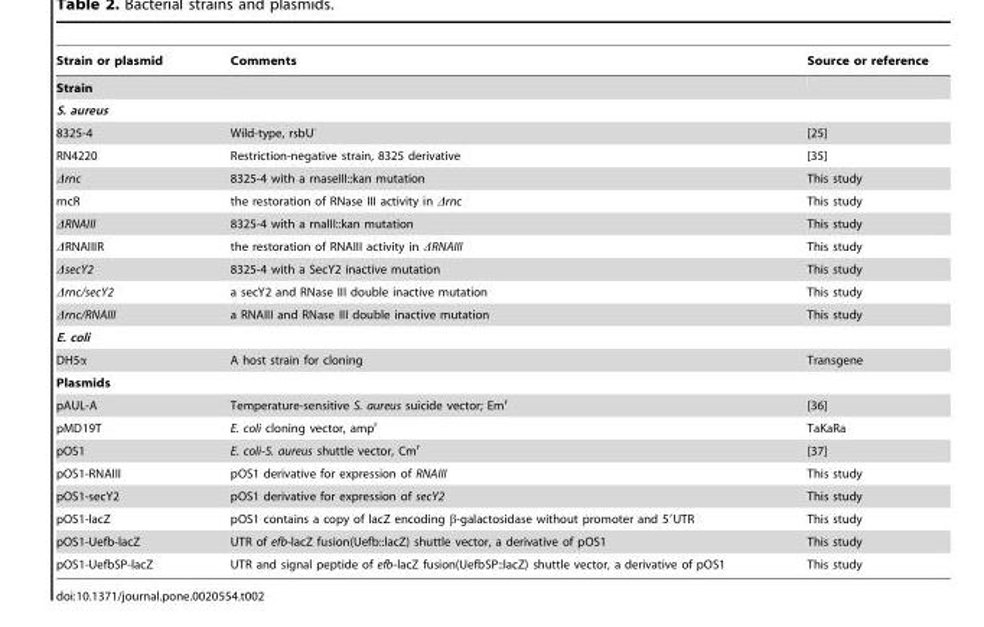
<table><thead><tr><td>Strain or plasmid</td><td>Comments</td><td>Source or reference</td></tr></thead><tbody><tr><td colspan="3">Strain</td></tr><tr><td colspan="3">S. aureus</td></tr><tr><td>8325-4</td><td>Wild-type, rsbU<sup>-</sup></td><td>[25]</td></tr><tr><td>RN4220</td><td>Restriction-negative strain, 8325 derivative</td><td>[35]</td></tr><tr><td>Δrnc</td><td>8325-4 with a rnaseIII::kan mutation</td><td>This study</td></tr><tr><td>rncR</td><td>the restoration of RNase III activity in Δrnc</td><td>This study</td></tr><tr><td>ΔRNAIII</td><td>8325-4 with a rnaIII::kan mutation</td><td>This study</td></tr><tr><td>ΔRNAIIIR</td><td>the restoration of RNAIII activity in ΔRNAIII</td><td>This study</td></tr><tr><td>ΔsecY2</td><td>8325-4 with a SecY2 inactive mutation</td><td>This study</td></tr><tr><td>Δrnc/secY2</td><td>a secY2 and RNase III double inactive mutation</td><td>This study</td></tr><tr><td>Δrnc/RNAIII</td><td>a RNAIII and RNase III double inactive mutation</td><td>This study</td></tr><tr><td colspan="3">E. coli</td></tr><tr><td>DH5α</td><td>A host strain for cloning</td><td>Transgene</td></tr><tr><td colspan="3">Plasmids</td></tr><tr><td>pAUL-A</td><td>Temperature-sensitive S. aureus suicide vector; Em<sup>r</sup></td><td>[36]</td></tr><tr><td>pMD19T</td><td>E. coli cloning vector, amp<sup>r</sup></td><td>TaKaRa</td></tr><tr><td>pOS1</td><td>E. coli-S. aureus shuttle vector, Cm<sup>r</sup></td><td>[37]</td></tr><tr><td>pOS1-RNAIII</td><td>pOS1 derivative for expression of RNAIII</td><td>This study</td></tr><tr><td>pOS1-secY2</td><td>pOS1 derivative for expression of secY2</td><td>This study</td></tr><tr><td>pOS1-lacZ</td><td>pOS1 contains a copy of lacZ encoding β-galactosidase without promoter and 5′UTR</td><td>This study</td></tr><tr><td>pOS1-Uefb-lacZ</td><td>UTR of efb-lacZ fusion(Uefb::lacZ) shuttle vector, a derivative of pOS1</td><td>This study</td></tr><tr><td>pOS1-UefbSP-lacZ</td><td>UTR and signal peptide of efb-lacZ fusion(UefbSP::lacZ) shuttle vector, a derivative of pOS1</td><td>This study</td></tr></tbody></table>